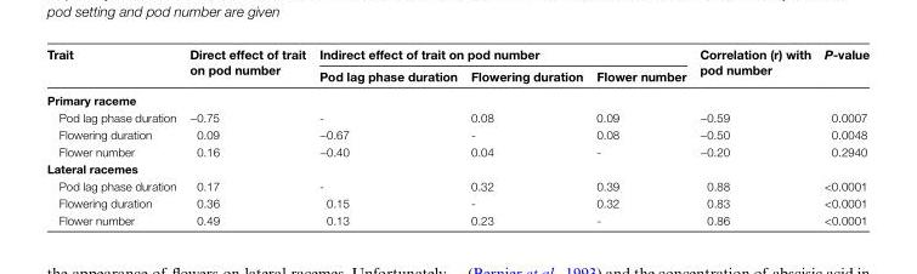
<table><thead><tr><td rowspan="2">Trait</td><td rowspan="2">Direct effect of trait on pod number</td><td colspan="3">Indirect effect of trait on pod number</td><td rowspan="2">Correlation (r) with pod number</td><td rowspan="2">P-value</td></tr><tr><td>Pod lag phase duration</td><td>Flowering duration</td><td>Flower number</td></tr></thead><tbody><tr><td colspan="7">Primary raceme</td></tr><tr><td>Pod lag phase duration</td><td>−0.75</td><td>-</td><td>0.08</td><td>0.09</td><td>−0.59</td><td>0.0007</td></tr><tr><td>Flowering duration</td><td>0.09</td><td>−0.67</td><td>-</td><td>0.08</td><td>−0.50</td><td>0.0048</td></tr><tr><td>Flower number</td><td>0.16</td><td>−0.40</td><td>0.04</td><td>-</td><td>−0.20</td><td>0.2940</td></tr><tr><td colspan="7">Lateral racemes</td></tr><tr><td>Pod lag phase duration</td><td>0.17</td><td>-</td><td>0.32</td><td>0.39</td><td>0.88</td><td>&lt;0.0001</td></tr><tr><td>Flowering duration</td><td>0.36</td><td>0.15</td><td>-</td><td>0.32</td><td>0.83</td><td>&lt;0.0001</td></tr><tr><td>Flower number</td><td>0.49</td><td>0.13</td><td>0.23</td><td>-</td><td>0.86</td><td>&lt;0.0001</td></tr></tbody></table>